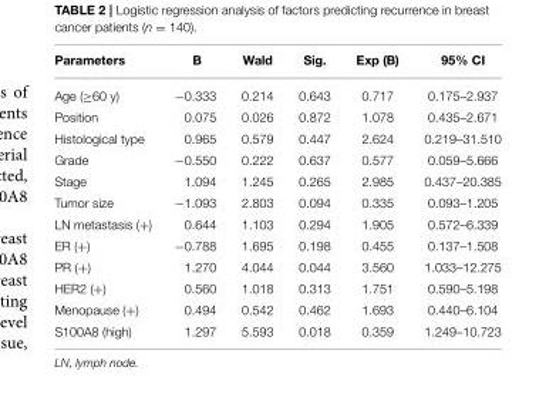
<table><thead><tr><td>Parameters</td><td>B</td><td>Wald</td><td>Sig.</td><td>Exp (B)</td><td>95% CI</td></tr></thead><tbody><tr><td>Age (≥60 y)</td><td>−0.333</td><td>0.214</td><td>0.643</td><td>0.717</td><td>0.175–2.937</td></tr><tr><td>Position</td><td>0.075</td><td>0.026</td><td>0.872</td><td>1.078</td><td>0.435–2.671</td></tr><tr><td>Histological type</td><td>0.965</td><td>0.579</td><td>0.447</td><td>2.624</td><td>0.219–31.510</td></tr><tr><td>Grade</td><td>−0.550</td><td>0.222</td><td>0.637</td><td>0.577</td><td>0.059–5.666</td></tr><tr><td>Stage</td><td>1.094</td><td>1.245</td><td>0.265</td><td>2.985</td><td>0.437–20.385</td></tr><tr><td>Tumor size</td><td>−1.093</td><td>2.803</td><td>0.094</td><td>0.335</td><td>0.093–1.205</td></tr><tr><td>LN metastasis (+)</td><td>0.644</td><td>1.103</td><td>0.294</td><td>1.905</td><td>0.572–6.339</td></tr><tr><td>ER (+)</td><td>−0.788</td><td>1.695</td><td>0.198</td><td>0.455</td><td>0.137–1.508</td></tr><tr><td>PR (+)</td><td>1.270</td><td>4.044</td><td>0.044</td><td>3.560</td><td>1.033–12.275</td></tr><tr><td>HER2 (+)</td><td>0.560</td><td>1.018</td><td>0.313</td><td>1.751</td><td>0.590–5.198</td></tr><tr><td>Menopause (+)</td><td>0.494</td><td>0.542</td><td>0.462</td><td>1.693</td><td>0.440–6.104</td></tr><tr><td>S100A8 (high)</td><td>1.297</td><td>5.593</td><td>0.018</td><td>0.359</td><td>1.249–10.723</td></tr></tbody></table>